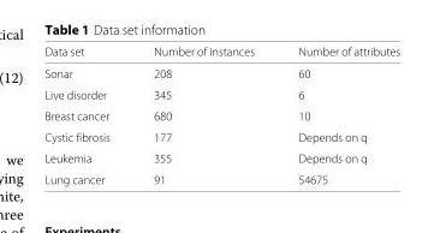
<table><thead><tr><td>Data set</td><td>Number of instances</td><td>Number of attributes</td></tr></thead><tbody><tr><td>Sonar</td><td>208</td><td>60</td></tr><tr><td>Live disorder</td><td>345</td><td>6</td></tr><tr><td>Breast cancer</td><td>680</td><td>10</td></tr><tr><td>Cystic fibrosis</td><td>177</td><td>Depends on q</td></tr><tr><td>Leukemia</td><td>355</td><td>Depends on q</td></tr><tr><td>Lung cancer</td><td>91</td><td>54675</td></tr></tbody></table>